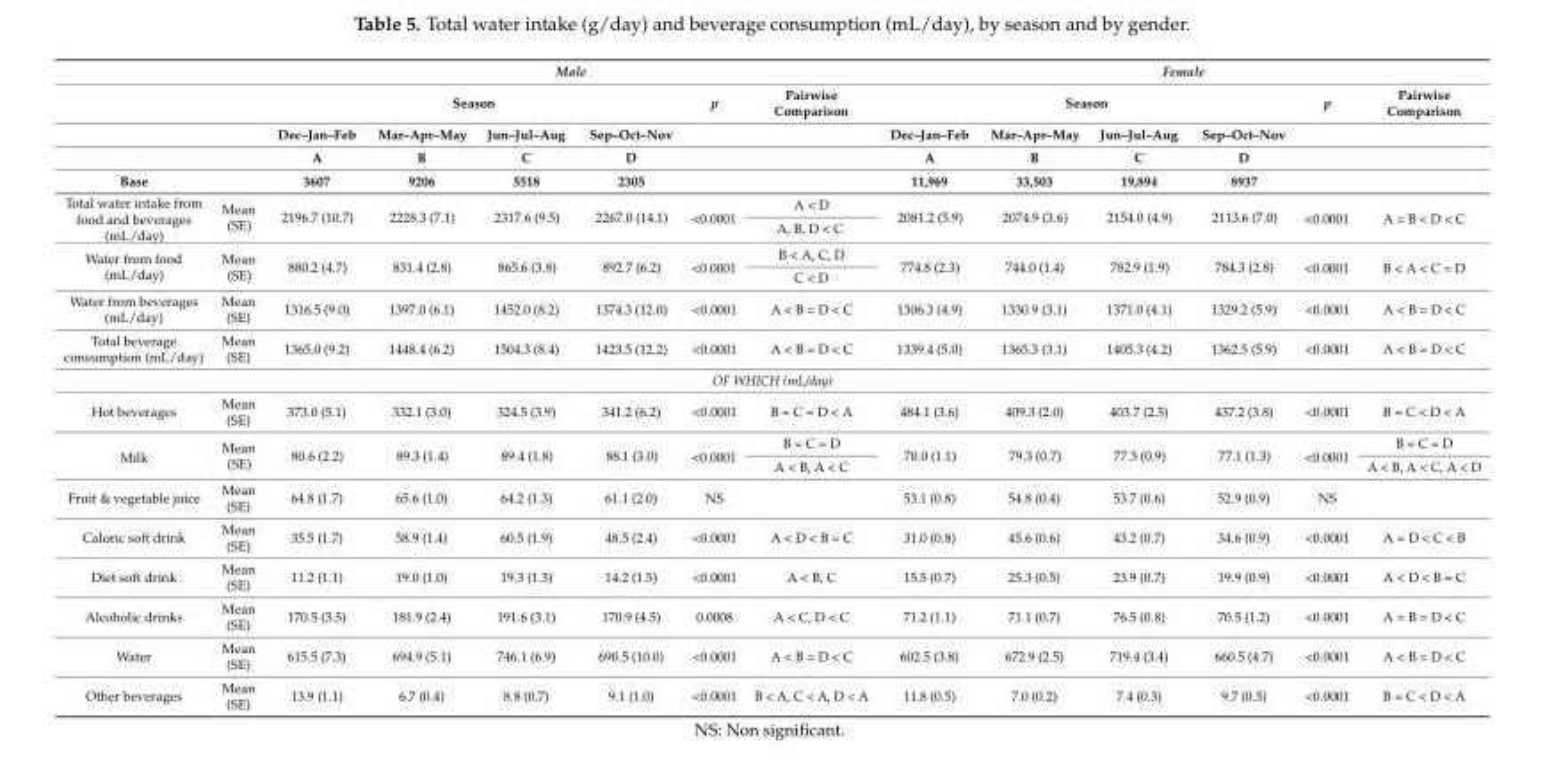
<table><thead><tr><td rowspan="5">Base</td><td rowspan="5"></td><td colspan="6">Male</td><td colspan="6">Female</td></tr><tr><td colspan="4">Season</td><td rowspan="4">p</td><td rowspan="4">Pairwise Comparison</td><td colspan="4">Season</td><td rowspan="4">p</td><td rowspan="4">Pairwise Comparison</td></tr><tr><td rowspan="3">Dec–Jan–Feb A 3607</td><td rowspan="3">Mar–Apr–May B 9206</td><td rowspan="3">Jun–Jul–Aug C 5518</td><td rowspan="3">Sep–Oct–Nov D 2305</td><td rowspan="3">Dec–Jan–Feb A 11,969</td><td rowspan="3">Mar–Apr–May B 33,503</td><td rowspan="3">Jun–Jul–Aug C 19,894</td><td rowspan="3">Sep–Oct–Nov D 8937</td></tr><tr></tr><tr></tr></thead><tbody><tr><td rowspan="2">Total water intake from food and beverages (mL/day)</td><td rowspan="2">Mean (SE)</td><td rowspan="2">2196.7 (10.7)</td><td rowspan="2">2228.3 (7.1)</td><td rowspan="2">2317.6 (9.5)</td><td rowspan="2">2267.0 (14.1)</td><td rowspan="2">&lt;0.0001</td><td>A &lt; D</td><td rowspan="2">2081.2 (5.9)</td><td rowspan="2">2074.9 (3.6)</td><td rowspan="2">2154.0 (4.9)</td><td rowspan="2">2113.6 (7.0)</td><td rowspan="2">&lt;0.0001</td><td rowspan="2">A = B &lt; D &lt; C</td></tr><tr><td>A, B, D &lt; C</td></tr><tr><td rowspan="2">Water from food (mL/day)</td><td rowspan="2">Mean (SE)</td><td rowspan="2">880.2 (4.7)</td><td rowspan="2">831.4 (2.8)</td><td rowspan="2">865.6 (3.8)</td><td rowspan="2">892.7 (6.2)</td><td rowspan="2">&lt;0.0001</td><td>B &lt; A, C, D</td><td rowspan="2">774.8 (2.3)</td><td rowspan="2">744.0 (1.4)</td><td rowspan="2">782.9 (1.9)</td><td rowspan="2">784.3 (2.8)</td><td rowspan="2">&lt;0.0001</td><td rowspan="2">B &lt; A &lt; C = D</td></tr><tr><td>C &lt; D</td></tr><tr><td>Water from beverages (mL/day)</td><td>Mean (SE)</td><td>1316.5 (9.0)</td><td>1397.0 (6.1)</td><td>1452.0 (8.2)</td><td>1374.3 (12.0)</td><td>&lt;0.0001</td><td>A &lt; B = D &lt; C</td><td>1306.3 (4.9)</td><td>1330.9 (3.1)</td><td>1371.0 (4.1)</td><td>1329.2 (5.9)</td><td>&lt;0.0001</td><td>A &lt; B = D &lt; C</td></tr><tr><td>Total beverage consumption (mL/day)</td><td>Mean (SE)</td><td>1365.0 (9.2)</td><td>1448.4 (6.2)</td><td>1504.3 (8.4)</td><td>1423.5 (12.2)</td><td>&lt;0.0001</td><td>A &lt; B = D &lt; C</td><td>1339.4 (5.0)</td><td>1365.3 (3.1)</td><td>1405.3 (4.2)</td><td>1362.5 (5.9)</td><td>&lt;0.0001</td><td>A &lt; B = D &lt; C</td></tr><tr><td colspan="14">OF WHICH (mL/day)</td></tr><tr><td>Hot beverages</td><td>Mean (SE)</td><td>373.0 (5.1)</td><td>332.1 (3.0)</td><td>324.5 (3.9)</td><td>341.2 (6.2)</td><td>&lt;0.0001</td><td>B = C = D &lt; A</td><td>484.1 (3.6)</td><td>409.3 (2.0)</td><td>403.7 (2.5)</td><td>437.2 (3.8)</td><td>&lt;0.0001</td><td>B = C &lt; D &lt; A</td></tr><tr><td rowspan="2">Milk</td><td rowspan="2">Mean (SE)</td><td rowspan="2">80.6 (2.2)</td><td rowspan="2">89.3 (1.4)</td><td rowspan="2">89.4 (1.8)</td><td rowspan="2">88.1 (3.0)</td><td rowspan="2">&lt;0.0001</td><td>B = C = D</td><td rowspan="2">70.0 (1.1)</td><td rowspan="2">79.3 (0.7)</td><td rowspan="2">77.5 (0.9)</td><td rowspan="2">77.1 (1.3)</td><td rowspan="2">&lt;0.0001</td><td>B = C = D</td></tr><tr><td>A &lt; B, A &lt; C</td><td>A &lt; B, A &lt; C, A &lt; D</td></tr><tr><td>Fruit &amp; vegetable juice</td><td>Mean (SE)</td><td>64.8 (1.7)</td><td>65.6 (1.0)</td><td>64.2 (1.3)</td><td>61.1 (2.0)</td><td>NS</td><td></td><td>53.1 (0.8)</td><td>54.8 (0.4)</td><td>53.7 (0.6)</td><td>52.9 (0.9)</td><td>NS</td><td></td></tr><tr><td>Caloric soft drink</td><td>Mean (SE)</td><td>35.5 (1.7)</td><td>58.9 (1.4)</td><td>60.5 (1.9)</td><td>48.5 (2.4)</td><td>&lt;0.0001</td><td>A &lt; D &lt; B = C</td><td>31.0 (0.8)</td><td>45.6 (0.6)</td><td>43.2 (0.7)</td><td>34.6 (0.9)</td><td>&lt;0.0001</td><td>A = D &lt; C &lt; B</td></tr><tr><td>Diet soft drink</td><td>Mean (SE)</td><td>11.2 (1.1)</td><td>19.0 (1.0)</td><td>19.3 (1.3)</td><td>14.2 (1.5)</td><td>&lt;0.0001</td><td>A &lt; B, C</td><td>15.5 (0.7)</td><td>25.3 (0.5)</td><td>23.9 (0.7)</td><td>19.9 (0.9)</td><td>&lt;0.0001</td><td>A &lt; D &lt; B = C</td></tr><tr><td>Alcoholic drinks</td><td>Mean (SE)</td><td>170.5 (3.5)</td><td>181.9 (2.4)</td><td>191.6 (3.1)</td><td>170.9 (4.5)</td><td>0.0008</td><td>A &lt; C, D &lt; C</td><td>71.2 (1.1)</td><td>71.1 (0.7)</td><td>76.5 (0.8)</td><td>70.5 (1.2)</td><td>&lt;0.0001</td><td>A = B = D &lt; C</td></tr><tr><td>Water</td><td>Mean (SE)</td><td>615.5 (7.3)</td><td>694.9 (5.1)</td><td>746.1 (6.9)</td><td>690.5 (10.0)</td><td>&lt;0.0001</td><td>A &lt; B = D &lt; C</td><td>602.5 (3.8)</td><td>672.9 (2.5)</td><td>719.4 (3.4)</td><td>660.5 (4.7)</td><td>&lt;0.0001</td><td>A &lt; B = D &lt; C</td></tr><tr><td>Other beverages</td><td>Mean (SE)</td><td>13.9 (1.1)</td><td>6.7 (0.4)</td><td>8.8 (0.7)</td><td>9.1 (1.0)</td><td>&lt;0.0001</td><td>B &lt; A, C &lt; A, D &lt; A</td><td>11.8 (0.5)</td><td>7.0 (0.2)</td><td>7.4 (0.3)</td><td>9.7 (0.5)</td><td>&lt;0.0001</td><td>B = C &lt; D &lt; A</td></tr></tbody></table>